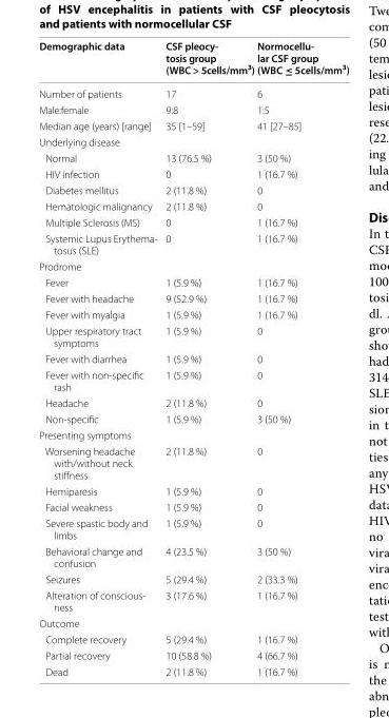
<table><thead><tr><td>Demographic data</td><td>CSF pleocy- tosis group (WBC &gt; 5cells/mm3)</td><td>Normocellu- lar CSF group (WBC ≤ 5cells/mm3)</td></tr></thead><tbody><tr><td>Number of patients</td><td>17</td><td>6</td></tr><tr><td>Male:female</td><td>9:8</td><td>1:5</td></tr><tr><td>Median age (years) [range]</td><td>35 [1–59]</td><td>41 [27–85]</td></tr><tr><td colspan="3">Underlying disease</td></tr><tr><td>Normal</td><td>13 (76.5 %)</td><td>3 (50 %)</td></tr><tr><td>HIV infection</td><td>0</td><td>1 (16.7 %)</td></tr><tr><td>Diabetes mellitus</td><td>2 (11.8 %)</td><td>0</td></tr><tr><td>Hematologic malignancy</td><td>2 (11.8 %)</td><td>0</td></tr><tr><td>Multiple Sclerosis (MS)</td><td>0</td><td>1 (16.7 %)</td></tr><tr><td>Systemic Lupus Erythema- tosus (SLE)</td><td>0</td><td>1 (16.7 %)</td></tr><tr><td colspan="3">Prodrome</td></tr><tr><td>Fever</td><td>1 (5.9 %)</td><td>1 (16.7 %)</td></tr><tr><td>Fever with headache</td><td>9 (52.9 %)</td><td>1 (16.7 %)</td></tr><tr><td>Fever with myalgia</td><td>1 (5.9 %)</td><td>1 (16.7 %)</td></tr><tr><td>Upper respiratory tract symptoms</td><td>1 (5.9 %)</td><td>0</td></tr><tr><td>Fever with diarrhea</td><td>1 (5.9 %)</td><td>0</td></tr><tr><td>Fever with non-specific rash</td><td>1 (5.9 %)</td><td>0</td></tr><tr><td>Headache</td><td>2 (11.8 %)</td><td>0</td></tr><tr><td>Non-specific</td><td>1 (5.9 %)</td><td>3 (50 %)</td></tr><tr><td colspan="3">Presenting symptoms</td></tr><tr><td>Worsening headache with/without neck stiffness</td><td>2 (11.8 %)</td><td>0</td></tr><tr><td>Hemiparesis</td><td>1 (5.9 %)</td><td>0</td></tr><tr><td>Facial weakness</td><td>1 (5.9 %)</td><td>0</td></tr><tr><td>Severe spastic body and limbs</td><td>1 (5.9 %)</td><td>0</td></tr><tr><td>Behavioral change and confusion</td><td>4 (23.5 %)</td><td>3 (50 %)</td></tr><tr><td>Seizures</td><td>5 (29.4 %)</td><td>2 (33.3 %)</td></tr><tr><td>Alteration of conscious- ness</td><td>3 (17.6 %)</td><td>1 (16.7 %)</td></tr><tr><td colspan="3">Outcome</td></tr><tr><td>Complete recovery</td><td>5 (29.4 %)</td><td>1 (16.7 %)</td></tr><tr><td>Partial recovery</td><td>10 (58.8 %)</td><td>4 (66.7 %)</td></tr><tr><td>Dead</td><td>2 (11.8 %)</td><td>1 (16.7 %)</td></tr></tbody></table>